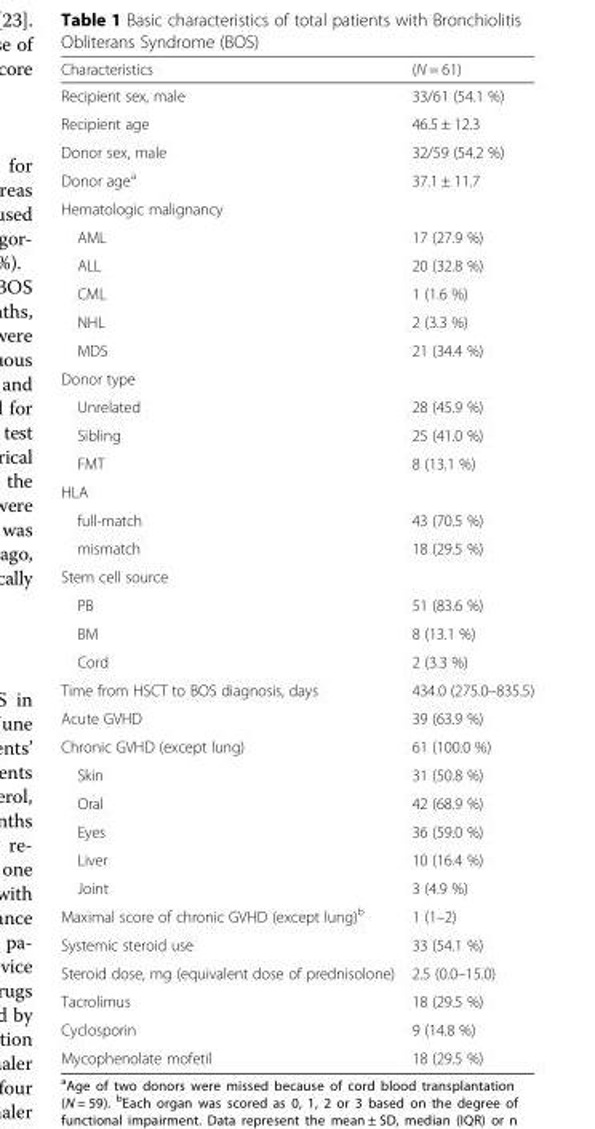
<table><thead><tr><td>Characteristics</td><td>(N = 61)</td></tr></thead><tbody><tr><td>Recipient sex, male</td><td>33/61 (54.1 %)</td></tr><tr><td>Recipient age</td><td>46.5 ± 12.3</td></tr><tr><td>Donor sex, male</td><td>32/59 (54.2 %)</td></tr><tr><td>Donor age<sup>a</sup></td><td>37.1 ± 11.7</td></tr><tr><td colspan="2">Hematologic malignancy</td></tr><tr><td>AML</td><td>17 (27.9 %)</td></tr><tr><td>ALL</td><td>20 (32.8 %)</td></tr><tr><td>CML</td><td>1 (1.6 %)</td></tr><tr><td>NHL</td><td>2 (3.3 %)</td></tr><tr><td>MDS</td><td>21 (34.4 %)</td></tr><tr><td colspan="2">Donor type</td></tr><tr><td>Unrelated</td><td>28 (45.9 %)</td></tr><tr><td>Sibling</td><td>25 (41.0 %)</td></tr><tr><td>FMT</td><td>8 (13.1 %)</td></tr><tr><td colspan="2">HLA</td></tr><tr><td>full-match</td><td>43 (70.5 %)</td></tr><tr><td>mismatch</td><td>18 (29.5 %)</td></tr><tr><td colspan="2">Stem cell source</td></tr><tr><td>PB</td><td>51 (83.6 %)</td></tr><tr><td>BM</td><td>8 (13.1 %)</td></tr><tr><td>Cord</td><td>2 (3.3 %)</td></tr><tr><td>Time from HSCT to BOS diagnosis, days</td><td>434.0 (275.0–835.5)</td></tr><tr><td>Acute GVHD</td><td>39 (63.9 %)</td></tr><tr><td>Chronic GVHD (except lung)</td><td>61 (100.0 %)</td></tr><tr><td>Skin</td><td>31 (50.8 %)</td></tr><tr><td>Oral</td><td>42 (68.9 %)</td></tr><tr><td>Eyes</td><td>36 (59.0 %)</td></tr><tr><td>Liver</td><td>10 (16.4 %)</td></tr><tr><td>Joint</td><td>3 (4.9 %)</td></tr><tr><td>Maximal score of chronic GVHD (except lung)<sup>b</sup></td><td>1 (1–2)</td></tr><tr><td>Systemic steroid use</td><td>33 (54.1 %)</td></tr><tr><td>Steroid dose, mg (equivalent dose of prednisolone)</td><td>2.5 (0.0–15.0)</td></tr><tr><td>Tacrolimus</td><td>18 (29.5 %)</td></tr><tr><td>Cyclosporin</td><td>9 (14.8 %)</td></tr><tr><td>Mycophenolate mofetil</td><td>18 (29.5 %)</td></tr></tbody></table>